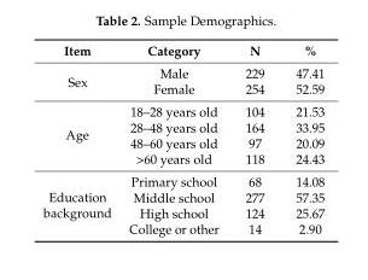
<table><thead><tr><td>Item</td><td>Category</td><td>N</td><td>%</td></tr></thead><tbody><tr><td rowspan="2">Sex</td><td>Male</td><td>229</td><td>47.41</td></tr><tr><td>Female</td><td>254</td><td>52.59</td></tr><tr><td rowspan="4">Age</td><td>18–28 years old</td><td>104</td><td>21.53</td></tr><tr><td>28–48 years old</td><td>164</td><td>33.95</td></tr><tr><td>48–60 years old</td><td>97</td><td>20.09</td></tr><tr><td>&gt;60 years old</td><td>118</td><td>24.43</td></tr><tr><td rowspan="4">Education background</td><td>Primary school</td><td>68</td><td>14.08</td></tr><tr><td>Middle school</td><td>277</td><td>57.35</td></tr><tr><td>High school</td><td>124</td><td>25.67</td></tr><tr><td>College or other</td><td>14</td><td>2.90</td></tr></tbody></table>